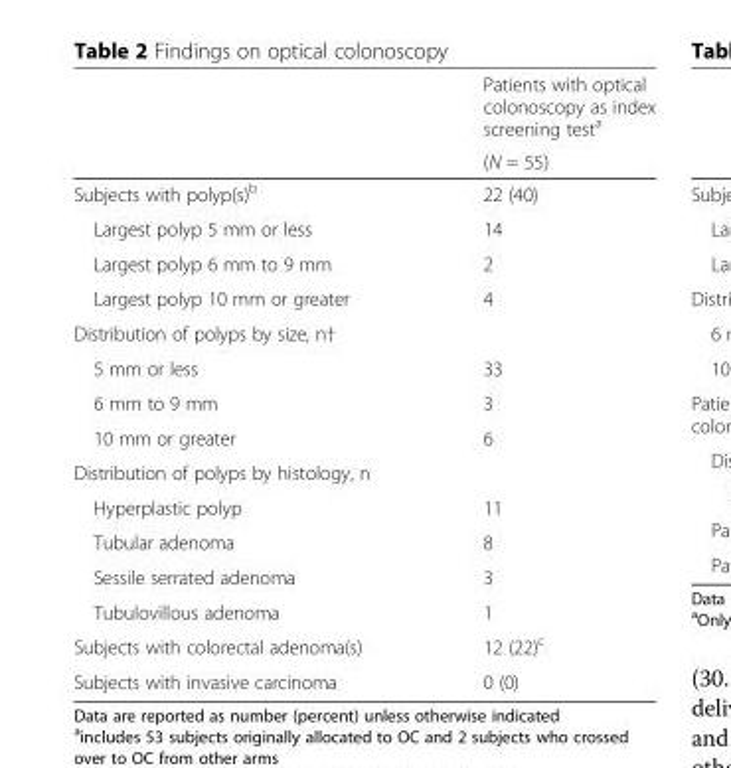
<table><thead><tr><td rowspan="2"></td><td rowspan="2">Patients with optical colonoscopy as index screening test<sup>a</sup> (N = 55)</td></tr><tr></tr></thead><tbody><tr><td>Subjects with polyp(s)<sup>b</sup></td><td>22 (40)</td></tr><tr><td>Largest polyp 5 mm or less</td><td>14</td></tr><tr><td>Largest polyp 6 mm to 9 mm</td><td>2</td></tr><tr><td>Largest polyp 10 mm or greater</td><td>4</td></tr><tr><td colspan="2">Distribution of polyps by size, n†</td></tr><tr><td>5 mm or less</td><td>33</td></tr><tr><td>6 mm to 9 mm</td><td>3</td></tr><tr><td>10 mm or greater</td><td>6</td></tr><tr><td colspan="2">Distribution of polyps by histology, n</td></tr><tr><td>Hyperplastic polyp</td><td>11</td></tr><tr><td>Tubular adenoma</td><td>8</td></tr><tr><td>Sessile serrated adenoma</td><td>3</td></tr><tr><td>Tubulovillous adenoma</td><td>1</td></tr><tr><td>Subjects with colorectal adenoma(s)</td><td>12 (22)<sup>c</sup></td></tr><tr><td>Subjects with invasive carcinoma</td><td>0 (0)</td></tr></tbody></table>